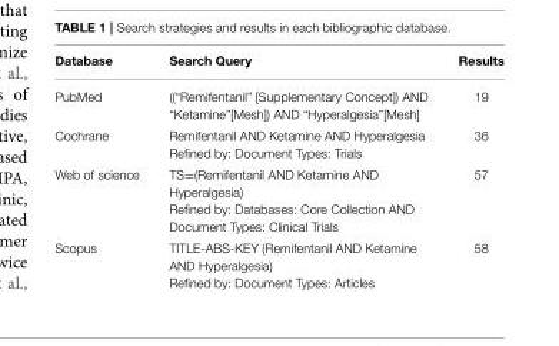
<table><thead><tr><td>Database</td><td>Search Query</td><td>Results</td></tr></thead><tbody><tr><td>PubMed</td><td>((“Remifentanil” [Supplementary Concept]) AND “Ketamine”[Mesh]) AND “Hyperalgesia”[Mesh]</td><td>19</td></tr><tr><td>Cochrane</td><td>Remifentanil AND Ketamine AND Hyperalgesia Refined by: Document Types: Trials</td><td>36</td></tr><tr><td>Web of science</td><td>TS=(Remifentanil AND Ketamine AND Hyperalgesia) Refined by: Databases: Core Collection AND Document Types: Clinical Trials</td><td>57</td></tr><tr><td>Scopus</td><td>TITLE-ABS-KEY (Remifentanil AND Ketamine AND Hyperalgesia) Refined by: Document Types: Articles</td><td>58</td></tr></tbody></table>